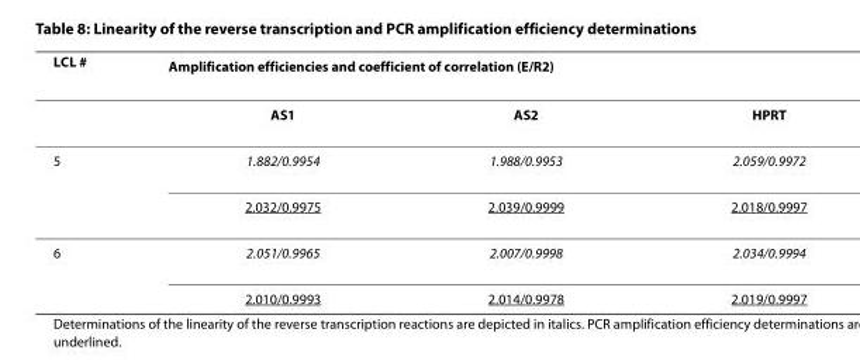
<table><thead><tr><td rowspan="2">LCL #</td><td colspan="3">Amplification efficiencies and coefficient of correlation (E/R<sup>2</sup>)</td></tr><tr><td>AS1</td><td>AS2</td><td>HPRT</td></tr></thead><tbody><tr><td rowspan="2">5</td><td>1.882/0.9954</td><td>1.988/0.9953</td><td>2.059/0.9972</td></tr><tr><td>2.032/0.9975</td><td>2.039/0.9999</td><td>2.018/0.9997</td></tr><tr><td rowspan="2">6</td><td>2.051/0.9965</td><td>2.007/0.9998</td><td>2.034/0.9994</td></tr><tr><td>2.010/0.9993</td><td>2.014/0.9978</td><td>2.019/0.9997</td></tr></tbody></table>